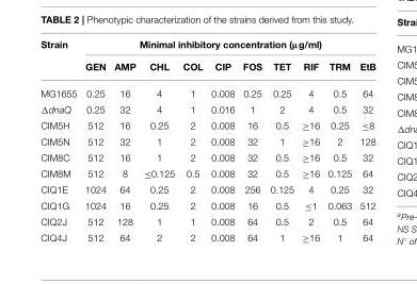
<table><thead><tr><td rowspan="2">Strain</td><td colspan="10">Minimal inhibitory concentration (µg/ml)</td></tr><tr><td>GEN</td><td>AMP</td><td>CHL</td><td>COL</td><td>CIP</td><td>FOS</td><td>TET</td><td>RIF</td><td>TRM</td><td>EtB</td></tr></thead><tbody><tr><td>MG1655</td><td>0.25</td><td>16</td><td>4</td><td>1</td><td>0.008</td><td>0.25</td><td>0.25</td><td>4</td><td>0.5</td><td>64</td></tr><tr><td>ΔdnaQ</td><td>0.25</td><td>32</td><td>4</td><td>1</td><td>0.016</td><td>1</td><td>2</td><td>4</td><td>0.5</td><td>32</td></tr><tr><td>CIM5H</td><td>512</td><td>16</td><td>0.25</td><td>2</td><td>0.008</td><td>16</td><td>0.5</td><td>≥16</td><td>0.25</td><td>≤8</td></tr><tr><td>CIM5N</td><td>512</td><td>32</td><td>1</td><td>2</td><td>0.008</td><td>32</td><td>1</td><td>≥16</td><td>2</td><td>128</td></tr><tr><td>CIM8C</td><td>512</td><td>16</td><td>1</td><td>2</td><td>0.008</td><td>32</td><td>0.5</td><td>≥16</td><td>0.5</td><td>32</td></tr><tr><td>CIM8M</td><td>512</td><td>8</td><td>≤0.125</td><td>0.5</td><td>0.008</td><td>32</td><td>0.5</td><td>≥16</td><td>0.125</td><td>64</td></tr><tr><td>CIQ1E</td><td>1024</td><td>64</td><td>0.25</td><td>2</td><td>0.008</td><td>256</td><td>0.125</td><td>4</td><td>0.25</td><td>32</td></tr><tr><td>CIQ1G</td><td>1024</td><td>16</td><td>0.25</td><td>2</td><td>0.008</td><td>16</td><td>0.5</td><td>≤1</td><td>0.063</td><td>512</td></tr><tr><td>CIQ2J</td><td>512</td><td>128</td><td>1</td><td>1</td><td>0.008</td><td>64</td><td>0.5</td><td>2</td><td>0.5</td><td>64</td></tr><tr><td>CIQ4J</td><td>512</td><td>64</td><td>2</td><td>2</td><td>0.008</td><td>64</td><td>1</td><td>≥16</td><td>1</td><td>64</td></tr></tbody></table>